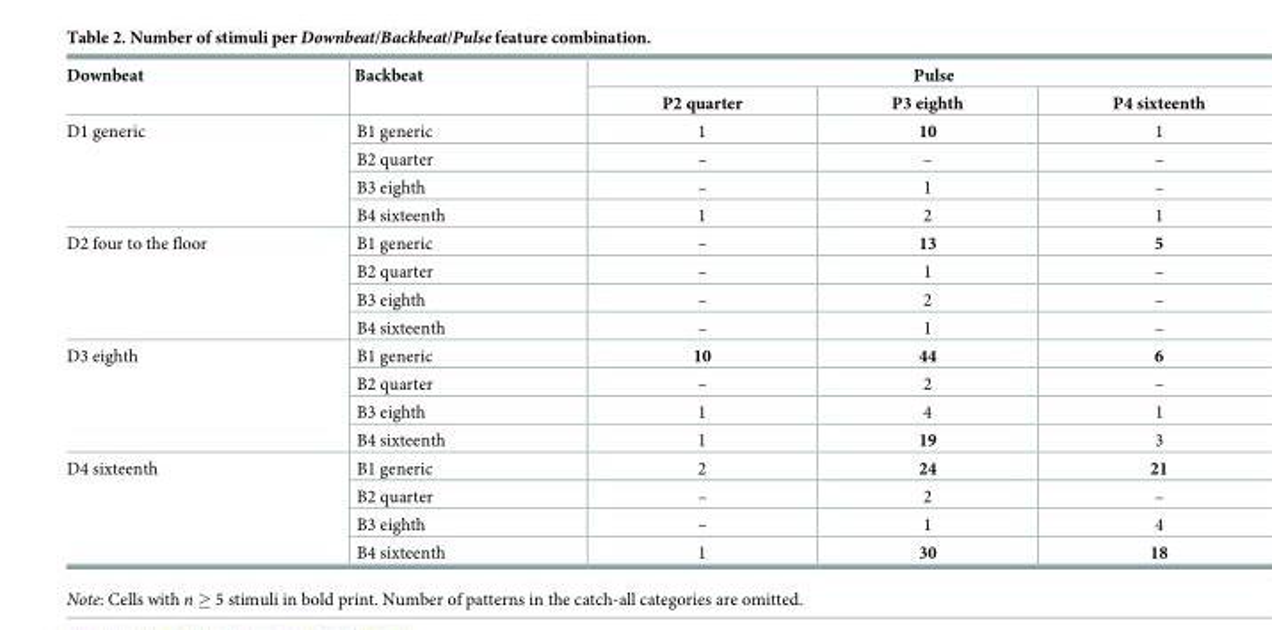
<table><thead><tr><td rowspan="2">Downbeat</td><td rowspan="2">Backbeat</td><td colspan="3">Pulse</td></tr><tr><td>P2 quarter</td><td>P3 eighth</td><td>P4 sixteenth</td></tr></thead><tbody><tr><td rowspan="4">D1 generic</td><td>B1 generic</td><td>1</td><td>10</td><td>1</td></tr><tr><td>B2 quarter</td><td>–</td><td>–</td><td>–</td></tr><tr><td>B3 eighth</td><td>–</td><td>1</td><td>–</td></tr><tr><td>B4 sixteenth</td><td>1</td><td>2</td><td>1</td></tr><tr><td rowspan="4">D2 four to the floor</td><td>B1 generic</td><td>–</td><td>13</td><td>5</td></tr><tr><td>B2 quarter</td><td>–</td><td>1</td><td>–</td></tr><tr><td>B3 eighth</td><td>–</td><td>2</td><td>–</td></tr><tr><td>B4 sixteenth</td><td>–</td><td>1</td><td>–</td></tr><tr><td rowspan="4">D3 eighth</td><td>B1 generic</td><td>10</td><td>44</td><td>6</td></tr><tr><td>B2 quarter</td><td>–</td><td>2</td><td>–</td></tr><tr><td>B3 eighth</td><td>1</td><td>4</td><td>1</td></tr><tr><td>B4 sixteenth</td><td>1</td><td>19</td><td>3</td></tr><tr><td rowspan="4">D4 sixteenth</td><td>B1 generic</td><td>2</td><td>24</td><td>21</td></tr><tr><td>B2 quarter</td><td>–</td><td>2</td><td>–</td></tr><tr><td>B3 eighth</td><td>–</td><td>1</td><td>4</td></tr><tr><td>B4 sixteenth</td><td>1</td><td>30</td><td>18</td></tr></tbody></table>